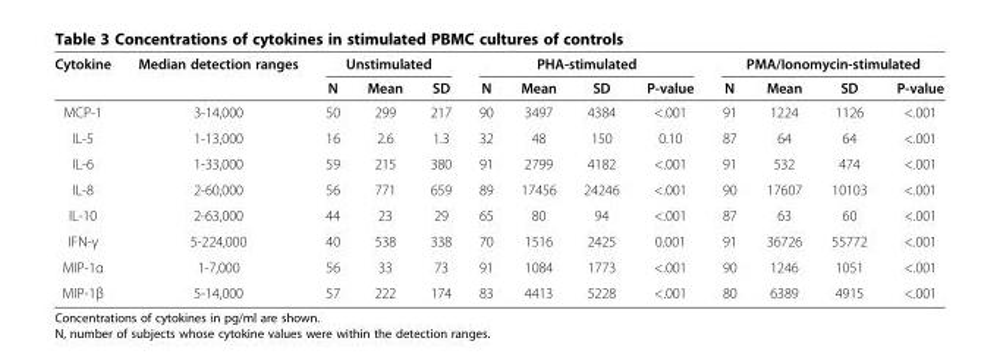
<table><thead><tr><td rowspan="2">Cytokine</td><td rowspan="2">Median detection ranges</td><td colspan="3">Unstimulated</td><td colspan="4">PHA-stimulated</td><td colspan="4">PMA/Ionomycin-stimulated</td></tr><tr><td>N</td><td>Mean</td><td>SD</td><td>N</td><td>Mean</td><td>SD</td><td>P-value</td><td>N</td><td>Mean</td><td>SD</td><td>P-value</td></tr></thead><tbody><tr><td>MCP-1</td><td>3-14,000</td><td>50</td><td>299</td><td>217</td><td>90</td><td>3497</td><td>4384</td><td>&lt;.001</td><td>91</td><td>1224</td><td>1126</td><td>&lt;.001</td></tr><tr><td>IL-5</td><td>1-13,000</td><td>16</td><td>2.6</td><td>1.3</td><td>32</td><td>48</td><td>150</td><td>0.10</td><td>87</td><td>64</td><td>64</td><td>&lt;.001</td></tr><tr><td>IL-6</td><td>1-33,000</td><td>59</td><td>215</td><td>380</td><td>91</td><td>2799</td><td>4182</td><td>&lt;.001</td><td>91</td><td>532</td><td>474</td><td>&lt;.001</td></tr><tr><td>IL-8</td><td>2-60,000</td><td>56</td><td>771</td><td>659</td><td>89</td><td>17456</td><td>24246</td><td>&lt;.001</td><td>90</td><td>17607</td><td>10103</td><td>&lt;.001</td></tr><tr><td>IL-10</td><td>2-63,000</td><td>44</td><td>23</td><td>29</td><td>65</td><td>80</td><td>94</td><td>&lt;.001</td><td>87</td><td>63</td><td>60</td><td>&lt;.001</td></tr><tr><td>IFN-γ</td><td>5-224,000</td><td>40</td><td>538</td><td>338</td><td>70</td><td>1516</td><td>2425</td><td>0.001</td><td>91</td><td>36726</td><td>55772</td><td>&lt;.001</td></tr><tr><td>MIP-1α</td><td>1-7,000</td><td>56</td><td>33</td><td>73</td><td>91</td><td>1084</td><td>1773</td><td>&lt;.001</td><td>90</td><td>1246</td><td>1051</td><td>&lt;.001</td></tr><tr><td>MIP-1β</td><td>5-14,000</td><td>57</td><td>222</td><td>174</td><td>83</td><td>4413</td><td>5228</td><td>&lt;.001</td><td>80</td><td>6389</td><td>4915</td><td>&lt;.001</td></tr></tbody></table>